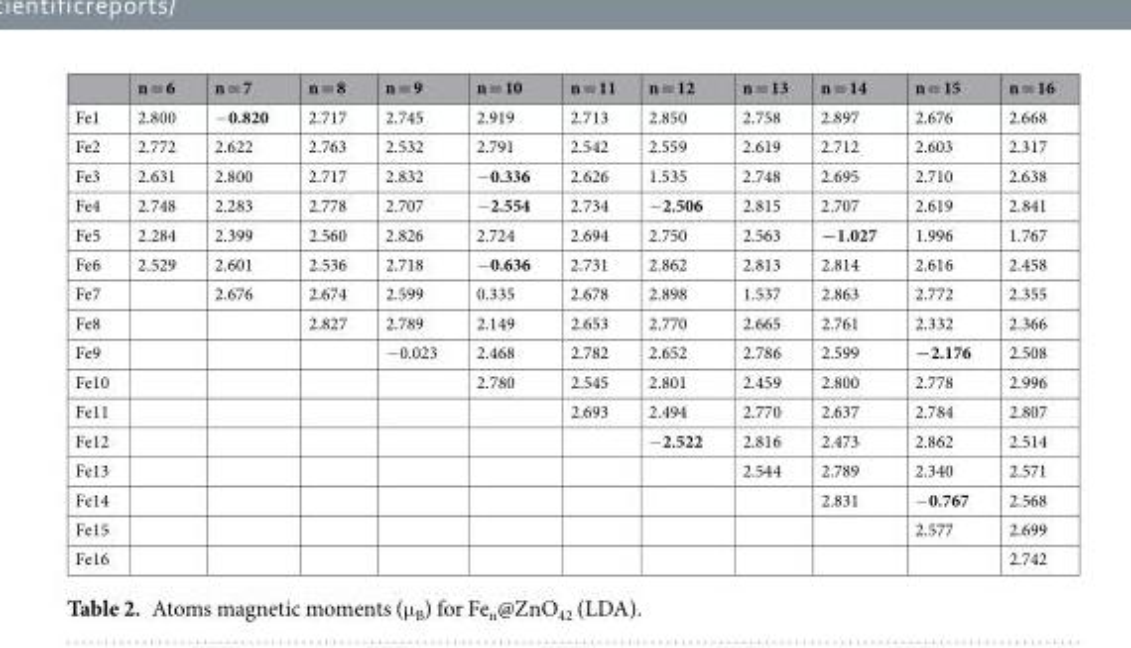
<table><thead><tr><td></td><td>n = 6</td><td>n = 7</td><td>n = 8</td><td>n = 9</td><td>n = 10</td><td>n = 11</td><td>n = 12</td><td>n = 13</td><td>n = 14</td><td>n = 15</td><td>n = 16</td></tr></thead><tbody><tr><td>Fe1</td><td>2.800</td><td>−0.820</td><td>2.717</td><td>2.745</td><td>2.919</td><td>2.713</td><td>2.850</td><td>2.758</td><td>2.897</td><td>2.676</td><td>2.668</td></tr><tr><td>Fe2</td><td>2.772</td><td>2.622</td><td>2.763</td><td>2.532</td><td>2.791</td><td>2.542</td><td>2.559</td><td>2.619</td><td>2.712</td><td>2.603</td><td>2.317</td></tr><tr><td>Fe3</td><td>2.631</td><td>2.800</td><td>2.717</td><td>2.832</td><td>−0.336</td><td>2.626</td><td>1.535</td><td>2.748</td><td>2.695</td><td>2.710</td><td>2.638</td></tr><tr><td>Fe4</td><td>2.748</td><td>2.283</td><td>2.778</td><td>2.707</td><td>−2.554</td><td>2.734</td><td>−2.506</td><td>2.815</td><td>2.707</td><td>2.619</td><td>2.841</td></tr><tr><td>Fe5</td><td>2.284</td><td>2.399</td><td>2.560</td><td>2.826</td><td>2.724</td><td>2.694</td><td>2.750</td><td>2.563</td><td>−1.027</td><td>1.996</td><td>1.767</td></tr><tr><td>Fe6</td><td>2.529</td><td>2.601</td><td>2.536</td><td>2.718</td><td>−0.636</td><td>2.731</td><td>2.862</td><td>2.813</td><td>2.814</td><td>2.616</td><td>2.458</td></tr><tr><td>Fe7</td><td></td><td>2.676</td><td>2.674</td><td>2.599</td><td>0.335</td><td>2.678</td><td>2.898</td><td>1.537</td><td>2.863</td><td>2.772</td><td>2.355</td></tr><tr><td>Fe8</td><td></td><td></td><td>2.827</td><td>2.789</td><td>2.149</td><td>2.653</td><td>2.770</td><td>2.665</td><td>2.761</td><td>2.332</td><td>2.366</td></tr><tr><td>Fe9</td><td></td><td></td><td></td><td>−0.023</td><td>2.468</td><td>2.782</td><td>2.652</td><td>2.786</td><td>2.599</td><td>−2.176</td><td>2.508</td></tr><tr><td>Fe10</td><td></td><td></td><td></td><td></td><td>2.780</td><td>2.545</td><td>2.801</td><td>2.459</td><td>2.800</td><td>2.778</td><td>2.996</td></tr><tr><td>Fe11</td><td></td><td></td><td></td><td></td><td></td><td>2.693</td><td>2.494</td><td>2.770</td><td>2.637</td><td>2.784</td><td>2.807</td></tr><tr><td>Fe12</td><td></td><td></td><td></td><td></td><td></td><td></td><td>−2.522</td><td>2.816</td><td>2.473</td><td>2.862</td><td>2.514</td></tr><tr><td>Fe13</td><td></td><td></td><td></td><td></td><td></td><td></td><td></td><td>2.544</td><td>2.789</td><td>2.340</td><td>2.571</td></tr><tr><td>Fe14</td><td></td><td></td><td></td><td></td><td></td><td></td><td></td><td></td><td>2.831</td><td>−0.767</td><td>2.568</td></tr><tr><td>Fe15</td><td></td><td></td><td></td><td></td><td></td><td></td><td></td><td></td><td></td><td>2.577</td><td>2.699</td></tr><tr><td>Fe16</td><td></td><td></td><td></td><td></td><td></td><td></td><td></td><td></td><td></td><td></td><td>2.742</td></tr></tbody></table>